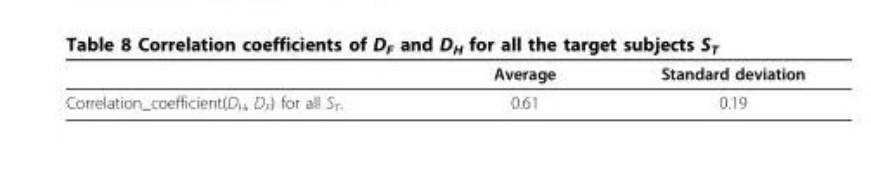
<table><thead><tr><td></td><td>Average</td><td>Standard deviation</td></tr></thead><tbody><tr><td>Correlation_coefficient(D<sub>H</sub>, D<sub>F</sub>) for all S<sub>T</sub>.</td><td>0.61</td><td>0.19</td></tr></tbody></table>